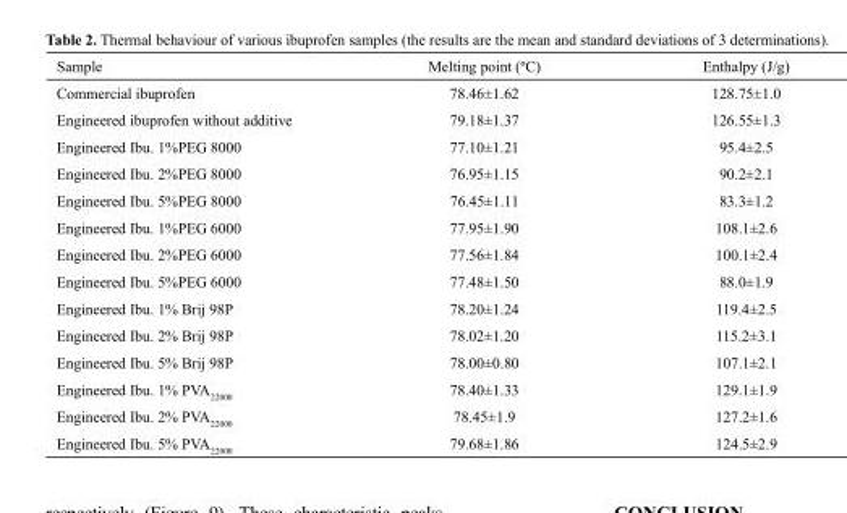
<table><thead><tr><td>Sample</td><td>Melting point (ºC)</td><td>Enthalpy (J/g)</td></tr></thead><tbody><tr><td>Commercial ibuprofen</td><td>78.46±1.62</td><td>128.75±1.0</td></tr><tr><td>Engineered ibuprofen without additive</td><td>79.18±1.37</td><td>126.55±1.3</td></tr><tr><td>Engineered Ibu. 1%PEG 8000</td><td>77.10±1.21</td><td>95.4±2.5</td></tr><tr><td>Engineered Ibu. 2%PEG 8000</td><td>76.95±1.15</td><td>90.2±2.1</td></tr><tr><td>Engineered Ibu. 5%PEG 8000</td><td>76.45±1.11</td><td>83.3±1.2</td></tr><tr><td>Engineered Ibu. 1%PEG 6000</td><td>77.95±1.90</td><td>108.1±2.6</td></tr><tr><td>Engineered Ibu. 2%PEG 6000</td><td>77.56±1.84</td><td>100.1±2.4</td></tr><tr><td>Engineered Ibu. 5%PEG 6000</td><td>77.48±1.50</td><td>88.0±1.9</td></tr><tr><td>Engineered Ibu. 1% Brij 98P</td><td>78.20±1.24</td><td>119.4±2.5</td></tr><tr><td>Engineered Ibu. 2% Brij 98P</td><td>78.02±1.20</td><td>115.2±3.1</td></tr><tr><td>Engineered Ibu. 5% Brij 98P</td><td>78.00±0.80</td><td>107.1±2.1</td></tr><tr><td>Engineered Ibu. 1% PVA<sub>22000</sub></td><td>78.40±1.33</td><td>129.1±1.9</td></tr><tr><td>Engineered Ibu. 2% PVA<sub>22000</sub></td><td>78.45±1.9</td><td>127.2±1.6</td></tr><tr><td>Engineered Ibu. 5% PVA<sub>22000</sub></td><td>79.68±1.86</td><td>124.5±2.9</td></tr></tbody></table>